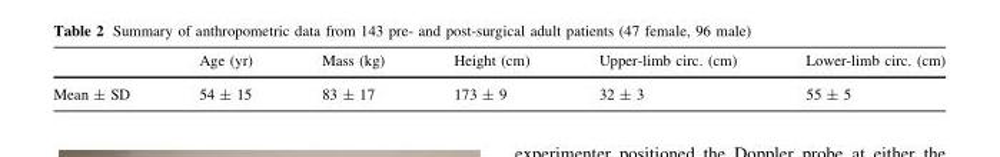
<table><thead><tr><td></td><td>Age (yr)</td><td>Mass (kg)</td><td>Height (cm)</td><td>Upper-limb circ. (cm)</td><td>Lower-limb circ. (cm)</td></tr></thead><tbody><tr><td>Mean ± SD</td><td>54 ± 15</td><td>83 ± 17</td><td>173 ± 9</td><td>32 ± 3</td><td>55 ± 5</td></tr></tbody></table>